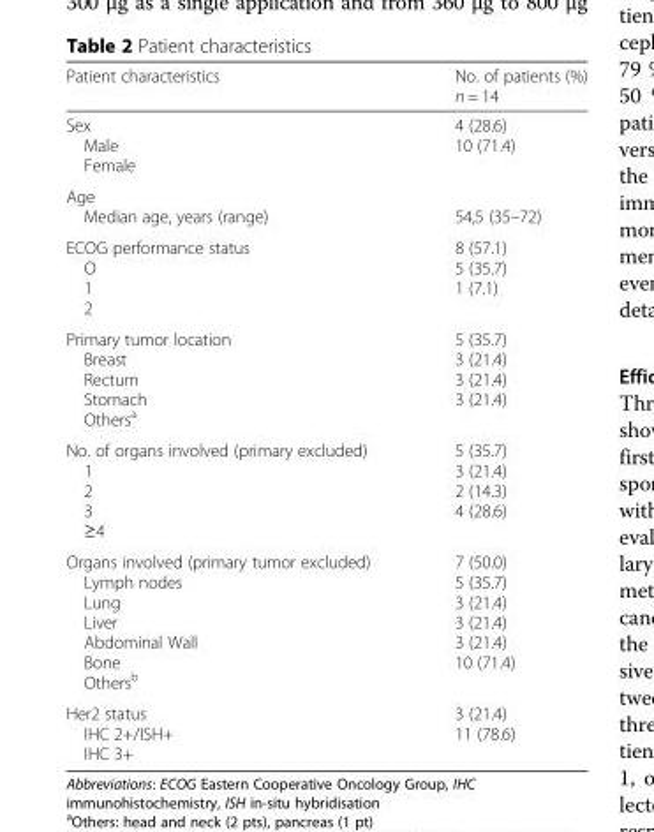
<table><thead><tr><td>Patient characteristics</td><td>No. of patients (%) n = 14</td></tr></thead><tbody><tr><td>Sex Male Female</td><td>4 (28.6) 10 (71.4)</td></tr><tr><td>Age Median age, years (range)</td><td>54,5 (35–72)</td></tr><tr><td>ECOG performance status O 1 2</td><td>8 (57.1) 5 (35.7) 1 (7.1)</td></tr><tr><td>Primary tumor location Breast Rectum Stomach Others<sup>a</sup></td><td>5 (35.7) 3 (21.4) 3 (21.4) 3 (21.4)</td></tr><tr><td>No. of organs involved (primary excluded) 1 2 3 ≥4</td><td>5 (35.7) 3 (21.4) 2 (14.3) 4 (28.6)</td></tr><tr><td>Organs involved (primary tumor excluded) Lymph nodes Lung Liver Abdominal Wall Bone Others<sup>b</sup></td><td>7 (50.0) 5 (35.7) 3 (21.4) 3 (21.4) 3 (21.4) 10 (71.4)</td></tr><tr><td>Her2 status IHC 2+/ISH+ IHC 3+</td><td>3 (21.4) 11 (78.6)</td></tr></tbody></table>